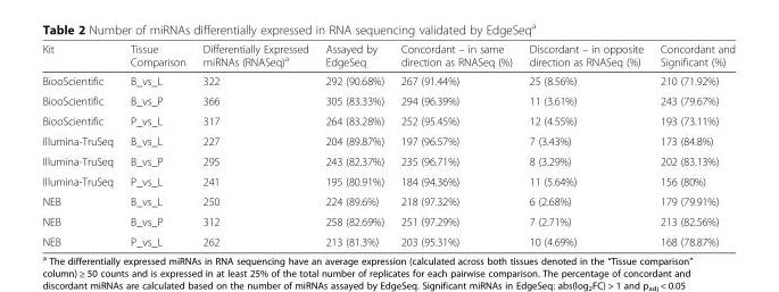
<table><thead><tr><td>Kit</td><td>Tissue Comparison</td><td>Differentially Expressed miRNAs (RNASeq)<sup>a</sup></td><td>Assayed by EdgeSeq</td><td>Concordant – in same direction as RNASeq (%)</td><td>Discordant – in opposite direction as RNASeq (%)</td><td>Concordant and Significant (%)</td></tr></thead><tbody><tr><td>BiooScientific</td><td>B_vs_L</td><td>322</td><td>292 (90.68%)</td><td>267 (91.44%)</td><td>25 (8.56%)</td><td>210 (71.92%)</td></tr><tr><td>BiooScientific</td><td>B_vs_P</td><td>366</td><td>305 (83.33%)</td><td>294 (96.39%)</td><td>11 (3.61%)</td><td>243 (79.67%)</td></tr><tr><td>BiooScientific</td><td>P_vs_L</td><td>317</td><td>264 (83.28%)</td><td>252 (95.45%)</td><td>12 (4.55%)</td><td>193 (73.11%)</td></tr><tr><td>Illumina-TruSeq</td><td>B_vs_L</td><td>227</td><td>204 (89.87%)</td><td>197 (96.57%)</td><td>7 (3.43%)</td><td>173 (84.8%)</td></tr><tr><td>Illumina-TruSeq</td><td>B_vs_P</td><td>295</td><td>243 (82.37%)</td><td>235 (96.71%)</td><td>8 (3.29%)</td><td>202 (83.13%)</td></tr><tr><td>Illumina-TruSeq</td><td>P_vs_L</td><td>241</td><td>195 (80.91%)</td><td>184 (94.36%)</td><td>11 (5.64%)</td><td>156 (80%)</td></tr><tr><td>NEB</td><td>B_vs_L</td><td>250</td><td>224 (89.6%)</td><td>218 (97.32%)</td><td>6 (2.68%)</td><td>179 (79.91%)</td></tr><tr><td>NEB</td><td>B_vs_P</td><td>312</td><td>258 (82.69%)</td><td>251 (97.29%)</td><td>7 (2.71%)</td><td>213 (82.56%)</td></tr><tr><td>NEB</td><td>P_vs_L</td><td>262</td><td>213 (81.3%)</td><td>203 (95.31%)</td><td>10 (4.69%)</td><td>168 (78.87%)</td></tr></tbody></table>